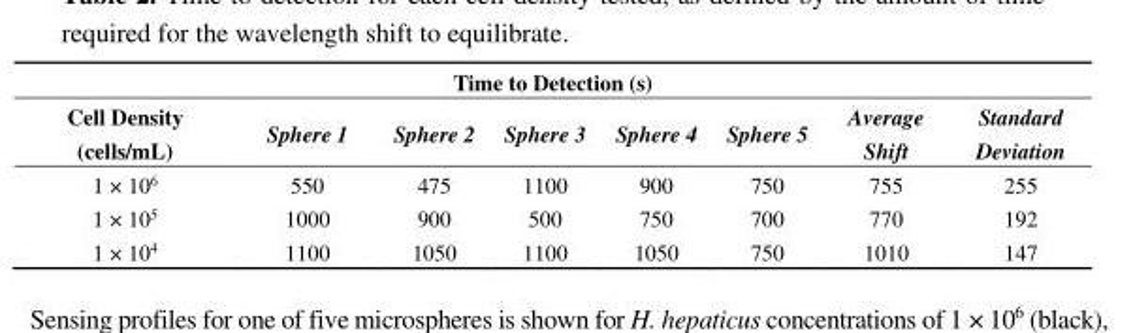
<table><thead><tr><td colspan="8">Time to Detection (s)</td></tr><tr><td>Cell Density (cells/mL)</td><td>Sphere 1</td><td>Sphere 2</td><td>Sphere 3</td><td>Sphere 4</td><td>Sphere 5</td><td>Average Shift</td><td>Standard Deviation</td></tr></thead><tbody><tr><td>1 × 10<sup>6</sup></td><td>550</td><td>475</td><td>1100</td><td>900</td><td>750</td><td>755</td><td>255</td></tr><tr><td>1 × 10<sup>5</sup></td><td>1000</td><td>900</td><td>500</td><td>750</td><td>700</td><td>770</td><td>192</td></tr><tr><td>1 × 10<sup>4</sup></td><td>1100</td><td>1050</td><td>1100</td><td>1050</td><td>750</td><td>1010</td><td>147</td></tr></tbody></table>